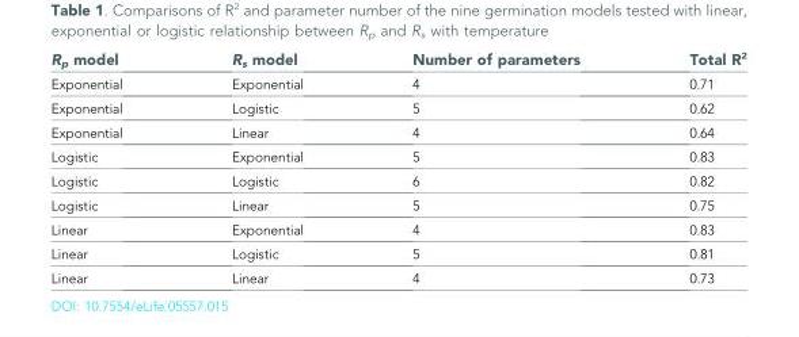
<table><thead><tr><td>R<sub>p</sub> model</td><td>R<sub>s</sub> model</td><td>Number of parameters</td><td>Total R<sup>2</sup></td></tr></thead><tbody><tr><td>Exponential</td><td>Exponential</td><td>4</td><td>0.71</td></tr><tr><td>Exponential</td><td>Logistic</td><td>5</td><td>0.62</td></tr><tr><td>Exponential</td><td>Linear</td><td>4</td><td>0.64</td></tr><tr><td>Logistic</td><td>Exponential</td><td>5</td><td>0.83</td></tr><tr><td>Logistic</td><td>Logistic</td><td>6</td><td>0.82</td></tr><tr><td>Logistic</td><td>Linear</td><td>5</td><td>0.75</td></tr><tr><td>Linear</td><td>Exponential</td><td>4</td><td>0.83</td></tr><tr><td>Linear</td><td>Logistic</td><td>5</td><td>0.81</td></tr><tr><td>Linear</td><td>Linear</td><td>4</td><td>0.73</td></tr></tbody></table>